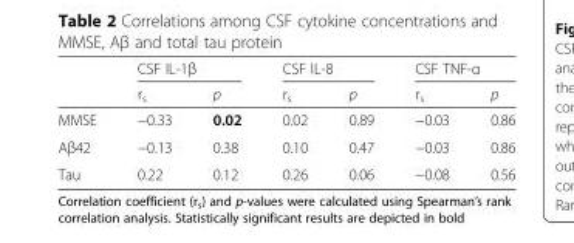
<table><thead><tr><td rowspan="2"></td><td colspan="2">CSF IL-1β</td><td colspan="2">CSF IL-8</td><td colspan="2">CSF TNF-α</td></tr><tr><td>r<sub>s</sub></td><td>p</td><td>r<sub>s</sub></td><td>p</td><td>r<sub>s</sub></td><td>p</td></tr></thead><tbody><tr><td>MMSE</td><td>−0.33</td><td>0.02</td><td>0.02</td><td>0.89</td><td>−0.03</td><td>0.86</td></tr><tr><td>Aβ42</td><td>−0.13</td><td>0.38</td><td>0.10</td><td>0.47</td><td>−0.03</td><td>0.86</td></tr><tr><td>Tau</td><td>0.22</td><td>0.12</td><td>0.26</td><td>0.06</td><td>−0.08</td><td>0.56</td></tr></tbody></table>